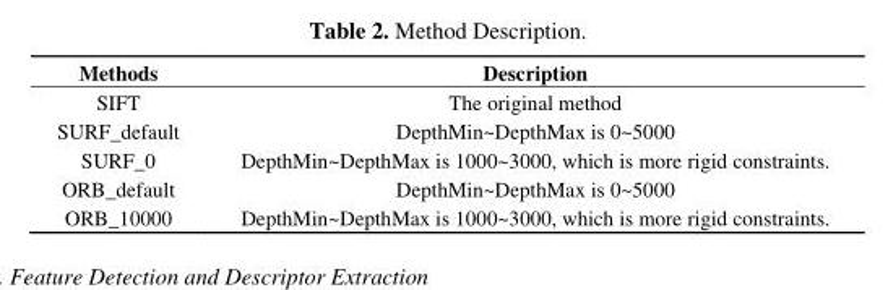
<table><thead><tr><td>Methods</td><td>Description</td></tr></thead><tbody><tr><td>SIFT</td><td>The original method</td></tr><tr><td>SURF_default</td><td>DepthMin~DepthMax is 0~5000</td></tr><tr><td>SURF_0</td><td>DepthMin~DepthMax is 1000~3000, which is more rigid constraints.</td></tr><tr><td>ORB_default</td><td>DepthMin~DepthMax is 0~5000</td></tr><tr><td>ORB_10000</td><td>DepthMin~DepthMax is 1000~3000, which is more rigid constraints.</td></tr></tbody></table>